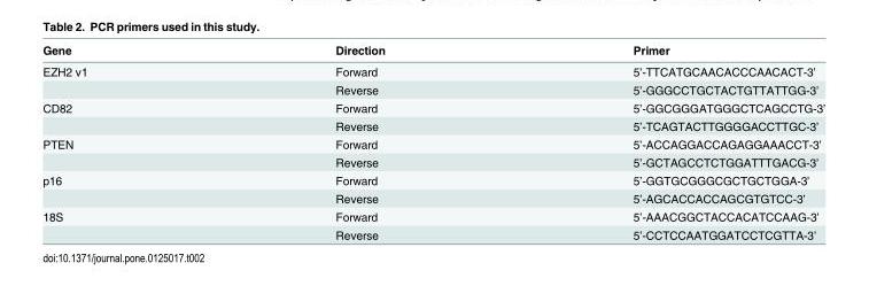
<table><thead><tr><td>Gene</td><td>Direction</td><td>Primer</td></tr></thead><tbody><tr><td rowspan="2">EZH2 v1</td><td>Forward</td><td>5’-TTCATGCAACACCCAACACT-3’</td></tr><tr><td>Reverse</td><td>5’-GGGCCTGCTACTGTTATTGG-3’</td></tr><tr><td rowspan="2">CD82</td><td>Forward</td><td>5’-GGCGGGATGGGCTCAGCCTG-3’</td></tr><tr><td>Reverse</td><td>5’-TCAGTACTTGGGGACCTTGC-3’</td></tr><tr><td rowspan="2">PTEN</td><td>Forward</td><td>5’-ACCAGGACCAGAGGAAACCT-3’</td></tr><tr><td>Reverse</td><td>5’-GCTAGCCTCTGGATTTGACG-3’</td></tr><tr><td rowspan="2">p16</td><td>Forward</td><td>5’-GGTGCGGGCGCTGCTGGA-3’</td></tr><tr><td>Reverse</td><td>5’-AGCACCACCAGCGTGTCC-3’</td></tr><tr><td rowspan="2">18S</td><td>Forward</td><td>5’-AAACGGCTACCACATCCAAG-3’</td></tr><tr><td>Reverse</td><td>5’-CCTCCAATGGATCCTCGTTA-3’</td></tr></tbody></table>